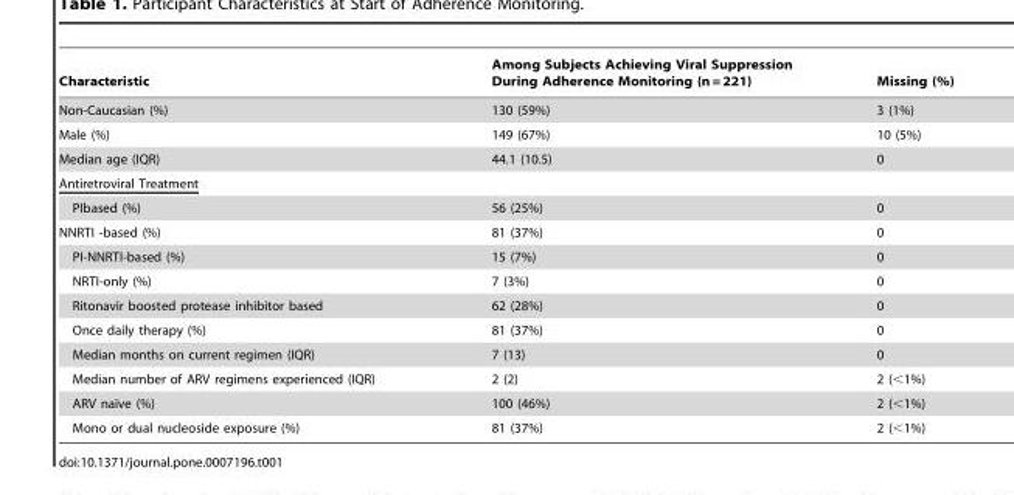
<table><thead><tr><td>Characteristic</td><td>Among Subjects Achieving Viral Suppression During Adherence Monitoring (n = 221)</td><td>Missing (%)</td></tr></thead><tbody><tr><td>Non-Caucasian (%)</td><td>130 (59%)</td><td>3 (1%)</td></tr><tr><td>Male (%)</td><td>149 (67%)</td><td>10 (5%)</td></tr><tr><td>Median age (IQR)</td><td>44.1 (10.5)</td><td>0</td></tr><tr><td colspan="3">Antiretroviral Treatment</td></tr><tr><td>PIbased (%)</td><td>56 (25%)</td><td>0</td></tr><tr><td>NNRTI -based (%)</td><td>81 (37%)</td><td>0</td></tr><tr><td>PI-NNRTI-based (%)</td><td>15 (7%)</td><td>0</td></tr><tr><td>NRTI-only (%)</td><td>7 (3%)</td><td>0</td></tr><tr><td>Ritonavir boosted protease inhibitor based</td><td>62 (28%)</td><td>0</td></tr><tr><td>Once daily therapy (%)</td><td>81 (37%)</td><td>0</td></tr><tr><td>Median months on current regimen (IQR)</td><td>7 (13)</td><td>0</td></tr><tr><td>Median number of ARV regimens experienced (IQR)</td><td>2 (2)</td><td>2 (&lt;1%)</td></tr><tr><td>ARV naı¨ve (%)</td><td>100 (46%)</td><td>2 (&lt;1%)</td></tr><tr><td>Mono or dual nucleoside exposure (%)</td><td>81 (37%)</td><td>2 (&lt;1%)</td></tr></tbody></table>